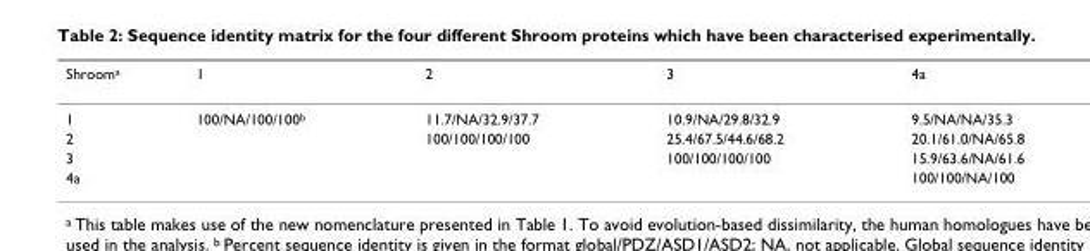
<table><thead><tr><td>Shroom<sup>a</sup></td><td>1</td><td>2</td><td>3</td><td>4a</td></tr></thead><tbody><tr><td>1</td><td>100/NA/100/100<sup>b</sup></td><td>11.7/NA/32.9/37.7</td><td>10.9/NA/29.8/32.9</td><td>9.5/NA/NA/35.3</td></tr><tr><td>2</td><td></td><td>100/100/100/100</td><td>25.4/67.5/44.6/68.2</td><td>20.1/61.0/NA/65.8</td></tr><tr><td>3</td><td></td><td></td><td>100/100/100/100</td><td>15.9/63.6/NA/61.6</td></tr><tr><td>4a</td><td></td><td></td><td></td><td>100/100/NA/100</td></tr></tbody></table>